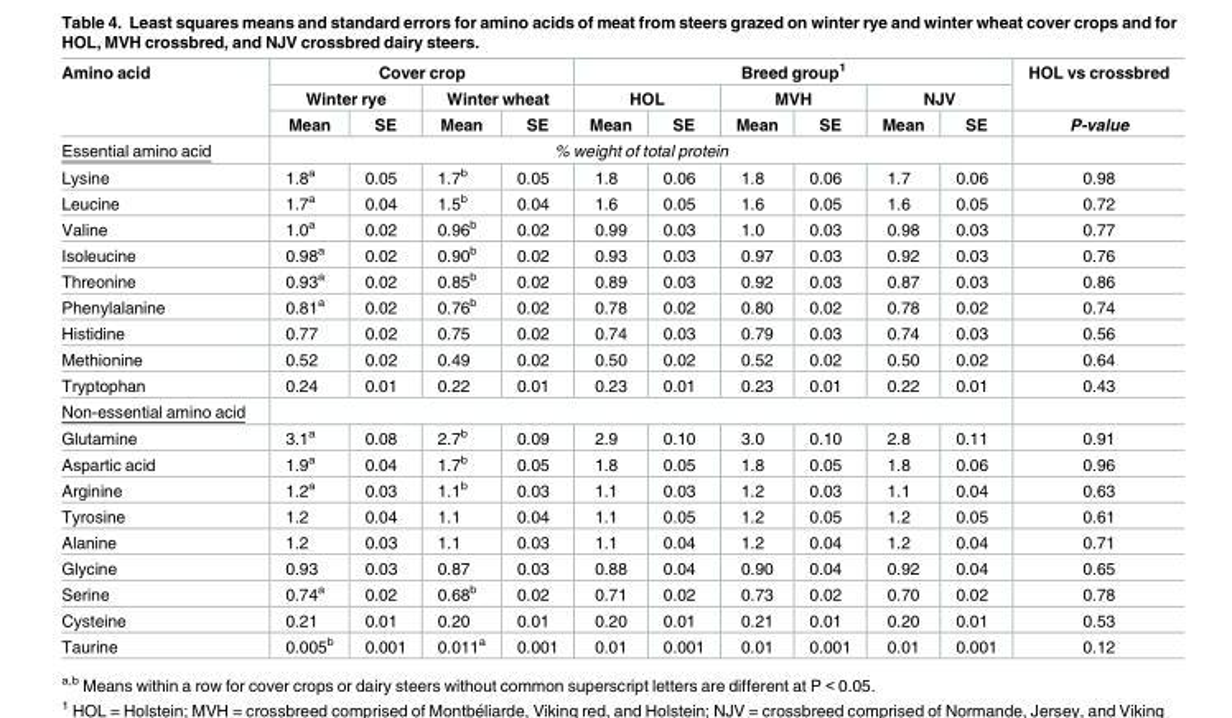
<table><thead><tr><td rowspan="3">Amino acid</td><td colspan="4">Cover crop</td><td colspan="6">Breed group<sup>1</sup></td><td rowspan="3">HOL vs crossbred P-value</td></tr><tr><td colspan="2">Winter rye</td><td colspan="2">Winter wheat</td><td colspan="2">HOL</td><td colspan="2">MVH</td><td colspan="2">NJV</td></tr><tr><td>Mean</td><td>SE</td><td>Mean</td><td>SE</td><td>Mean</td><td>SE</td><td>Mean</td><td>SE</td><td>Mean</td><td>SE</td></tr></thead><tbody><tr><td>Essential amino acid</td><td colspan="10">% weight of total protein</td><td></td></tr><tr><td>Lysine</td><td>1.8<sup>a</sup></td><td>0.05</td><td>1.7<sup>b</sup></td><td>0.05</td><td>1.8</td><td>0.06</td><td>1.8</td><td>0.06</td><td>1.7</td><td>0.06</td><td>0.98</td></tr><tr><td>Leucine</td><td>1.7<sup>a</sup></td><td>0.04</td><td>1.5<sup>b</sup></td><td>0.04</td><td>1.6</td><td>0.05</td><td>1.6</td><td>0.05</td><td>1.6</td><td>0.05</td><td>0.72</td></tr><tr><td>Valine</td><td>1.0<sup>a</sup></td><td>0.02</td><td>0.96<sup>b</sup></td><td>0.02</td><td>0.99</td><td>0.03</td><td>1.0</td><td>0.03</td><td>0.98</td><td>0.03</td><td>0.77</td></tr><tr><td>Isoleucine</td><td>0.98<sup>a</sup></td><td>0.02</td><td>0.90<sup>b</sup></td><td>0.02</td><td>0.93</td><td>0.03</td><td>0.97</td><td>0.03</td><td>0.92</td><td>0.03</td><td>0.76</td></tr><tr><td>Threonine</td><td>0.93<sup>a</sup></td><td>0.02</td><td>0.85<sup>b</sup></td><td>0.02</td><td>0.89</td><td>0.03</td><td>0.92</td><td>0.03</td><td>0.87</td><td>0.03</td><td>0.86</td></tr><tr><td>Phenylalanine</td><td>0.81<sup>a</sup></td><td>0.02</td><td>0.76<sup>b</sup></td><td>0.02</td><td>0.78</td><td>0.02</td><td>0.80</td><td>0.02</td><td>0.78</td><td>0.02</td><td>0.74</td></tr><tr><td>Histidine</td><td>0.77</td><td>0.02</td><td>0.75</td><td>0.02</td><td>0.74</td><td>0.03</td><td>0.79</td><td>0.03</td><td>0.74</td><td>0.03</td><td>0.56</td></tr><tr><td>Methionine</td><td>0.52</td><td>0.02</td><td>0.49</td><td>0.02</td><td>0.50</td><td>0.02</td><td>0.52</td><td>0.02</td><td>0.50</td><td>0.02</td><td>0.64</td></tr><tr><td>Tryptophan</td><td>0.24</td><td>0.01</td><td>0.22</td><td>0.01</td><td>0.23</td><td>0.01</td><td>0.23</td><td>0.01</td><td>0.22</td><td>0.01</td><td>0.43</td></tr><tr><td colspan="12">Non-essential amino acid</td></tr><tr><td>Glutamine</td><td>3.1<sup>a</sup></td><td>0.08</td><td>2.7<sup>b</sup></td><td>0.09</td><td>2.9</td><td>0.10</td><td>3.0</td><td>0.10</td><td>2.8</td><td>0.11</td><td>0.91</td></tr><tr><td>Aspartic acid</td><td>1.9<sup>a</sup></td><td>0.04</td><td>1.7<sup>b</sup></td><td>0.05</td><td>1.8</td><td>0.05</td><td>1.8</td><td>0.05</td><td>1.8</td><td>0.06</td><td>0.96</td></tr><tr><td>Arginine</td><td>1.2<sup>a</sup></td><td>0.03</td><td>1.1<sup>b</sup></td><td>0.03</td><td>1.1</td><td>0.03</td><td>1.2</td><td>0.03</td><td>1.1</td><td>0.04</td><td>0.63</td></tr><tr><td>Tyrosine</td><td>1.2</td><td>0.04</td><td>1.1</td><td>0.04</td><td>1.1</td><td>0.05</td><td>1.2</td><td>0.05</td><td>1.2</td><td>0.05</td><td>0.61</td></tr><tr><td>Alanine</td><td>1.2</td><td>0.03</td><td>1.1</td><td>0.03</td><td>1.1</td><td>0.04</td><td>1.2</td><td>0.04</td><td>1.2</td><td>0.04</td><td>0.71</td></tr><tr><td>Glycine</td><td>0.93</td><td>0.03</td><td>0.87</td><td>0.03</td><td>0.88</td><td>0.04</td><td>0.90</td><td>0.04</td><td>0.92</td><td>0.04</td><td>0.65</td></tr><tr><td>Serine</td><td>0.74<sup>a</sup></td><td>0.02</td><td>0.68<sup>b</sup></td><td>0.02</td><td>0.71</td><td>0.02</td><td>0.73</td><td>0.02</td><td>0.70</td><td>0.02</td><td>0.78</td></tr><tr><td>Cysteine</td><td>0.21</td><td>0.01</td><td>0.20</td><td>0.01</td><td>0.20</td><td>0.01</td><td>0.21</td><td>0.01</td><td>0.20</td><td>0.01</td><td>0.53</td></tr><tr><td>Taurine</td><td>0.005<sup>b</sup></td><td>0.001</td><td>0.011<sup>a</sup></td><td>0.001</td><td>0.01</td><td>0.001</td><td>0.01</td><td>0.001</td><td>0.01</td><td>0.001</td><td>0.12</td></tr></tbody></table>